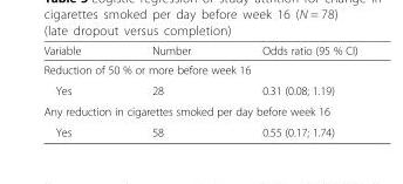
<table><thead><tr><td>Variable</td><td>Number</td><td>Odds ratio (95 % CI)</td></tr></thead><tbody><tr><td colspan="3">Reduction of 50 % or more before week 16</td></tr><tr><td>Yes</td><td>28</td><td>0.31 (0.08; 1.19)</td></tr><tr><td colspan="3">Any reduction in cigarettes smoked per day before week 16</td></tr><tr><td>Yes</td><td>58</td><td>0.55 (0.17; 1.74)</td></tr></tbody></table>